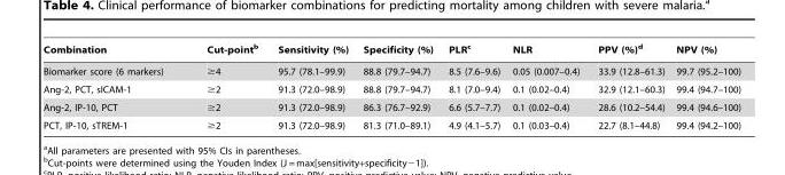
<table><thead><tr><td>Combination</td><td>Cut-point<sup>b</sup></td><td>Sensitivity (%)</td><td>Specificity (%)</td><td>PLR<sup>c</sup></td><td>NLR</td><td>PPV (%)<sup>d</sup></td><td>NPV (%)</td></tr></thead><tbody><tr><td>Biomarker score (6 markers)</td><td>≥4</td><td>95.7 (78.1–99.9)</td><td>88.8 (79.7–94.7)</td><td>8.5 (7.6–9.6)</td><td>0.05 (0.007–0.4)</td><td>33.9 (12.8–61.3)</td><td>99.7 (95.2–100)</td></tr><tr><td>Ang-2, PCT, sICAM-1</td><td>≥2</td><td>91.3 (72.0–98.9)</td><td>88.8 (79.7–94.7)</td><td>8.1 (7.0–9.4)</td><td>0.1 (0.02–0.4)</td><td>32.9 (12.1–60.3)</td><td>99.4 (94.7–100)</td></tr><tr><td>Ang-2, IP-10, PCT</td><td>≥2</td><td>91.3 (72.0–98.9)</td><td>86.3 (76.7–92.9)</td><td>6.6 (5.7–7.7)</td><td>0.1 (0.02–0.4)</td><td>28.6 (10.2–54.4)</td><td>99.4 (94.6–100)</td></tr><tr><td>PCT, IP-10, sTREM-1</td><td>≥2</td><td>91.3 (72.0–98.9)</td><td>81.3 (71.0–89.1)</td><td>4.9 (4.1–5.7)</td><td>0.1 (0.03–0.4)</td><td>22.7 (8.1–44.8)</td><td>99.4 (94.2–100)</td></tr></tbody></table>